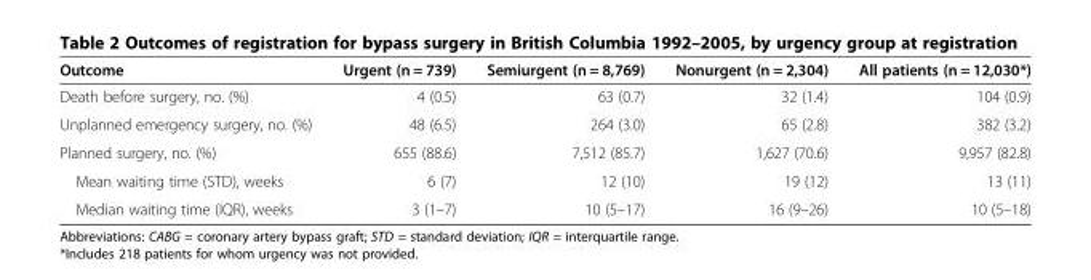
<table><thead><tr><td>Outcome</td><td>Urgent (n = 739)</td><td>Semiurgent (n = 8,769)</td><td>Nonurgent (n = 2,304)</td><td>All patients (n = 12,030*)</td></tr></thead><tbody><tr><td>Death before surgery, no. (%)</td><td>4 (0.5)</td><td>63 (0.7)</td><td>32 (1.4)</td><td>104 (0.9)</td></tr><tr><td>Unplanned emergency surgery, no. (%)</td><td>48 (6.5)</td><td>264 (3.0)</td><td>65 (2.8)</td><td>382 (3.2)</td></tr><tr><td>Planned surgery, no. (%)</td><td>655 (88.6)</td><td>7,512 (85.7)</td><td>1,627 (70.6)</td><td>9,957 (82.8)</td></tr><tr><td>Mean waiting time (STD), weeks</td><td>6 (7)</td><td>12 (10)</td><td>19 (12)</td><td>13 (11)</td></tr><tr><td>Median waiting time (IQR), weeks</td><td>3 (1–7)</td><td>10 (5–17)</td><td>16 (9–26)</td><td>10 (5–18)</td></tr></tbody></table>